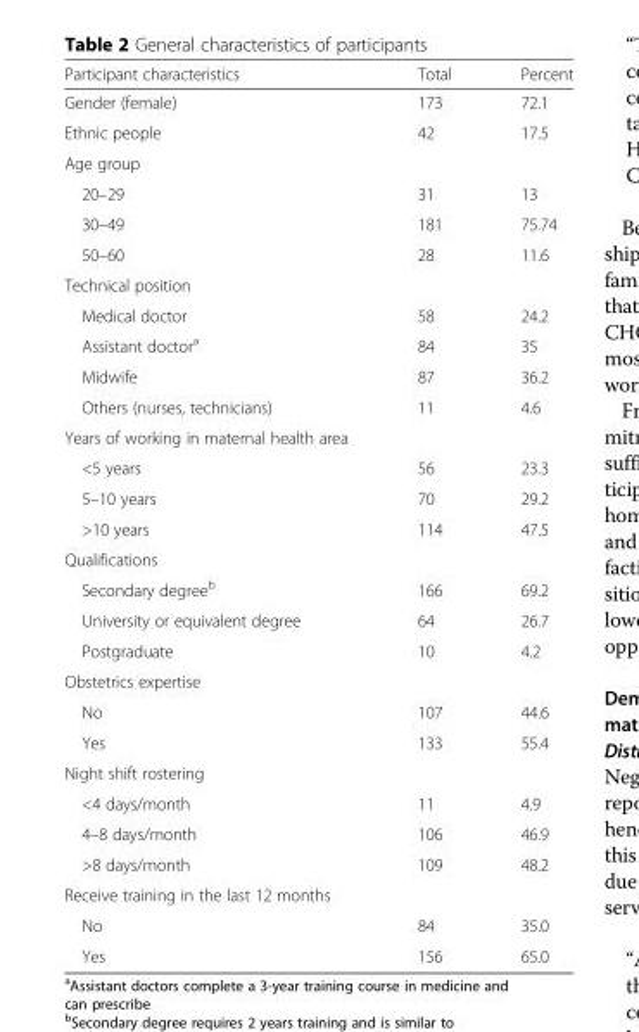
<table><thead><tr><td>Participant characteristics</td><td>Total</td><td>Percent</td></tr></thead><tbody><tr><td>Gender (female)</td><td>173</td><td>72.1</td></tr><tr><td>Ethnic people</td><td>42</td><td>17.5</td></tr><tr><td colspan="3">Age group</td></tr><tr><td>20–29</td><td>31</td><td>13</td></tr><tr><td>30–49</td><td>181</td><td>75.74</td></tr><tr><td>50–60</td><td>28</td><td>11.6</td></tr><tr><td colspan="3">Technical position</td></tr><tr><td>Medical doctor</td><td>58</td><td>24.2</td></tr><tr><td>Assistant doctor<sup>a</sup></td><td>84</td><td>35</td></tr><tr><td>Midwife</td><td>87</td><td>36.2</td></tr><tr><td>Others (nurses, technicians)</td><td>11</td><td>4.6</td></tr><tr><td colspan="3">Years of working in maternal health area</td></tr><tr><td>&lt;5 years</td><td>56</td><td>23.3</td></tr><tr><td>5–10 years</td><td>70</td><td>29.2</td></tr><tr><td>&gt;10 years</td><td>114</td><td>47.5</td></tr><tr><td colspan="3">Qualifications</td></tr><tr><td>Secondary degree<sup>b</sup></td><td>166</td><td>69.2</td></tr><tr><td>University or equivalent degree</td><td>64</td><td>26.7</td></tr><tr><td>Postgraduate</td><td>10</td><td>4.2</td></tr><tr><td colspan="3">Obstetrics expertise</td></tr><tr><td>No</td><td>107</td><td>44.6</td></tr><tr><td>Yes</td><td>133</td><td>55.4</td></tr><tr><td colspan="3">Night shift rostering</td></tr><tr><td>&lt;4 days/month</td><td>11</td><td>4.9</td></tr><tr><td>4–8 days/month</td><td>106</td><td>46.9</td></tr><tr><td>&gt;8 days/month</td><td>109</td><td>48.2</td></tr><tr><td colspan="3">Receive training in the last 12 months</td></tr><tr><td>No</td><td>84</td><td>35.0</td></tr><tr><td>Yes</td><td>156</td><td>65.0</td></tr></tbody></table>